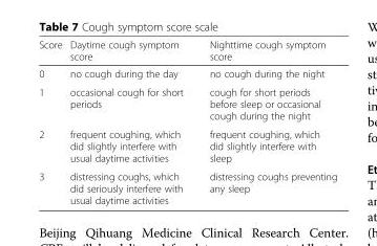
<table><thead><tr><td>Score</td><td>Daytime cough symptom score</td><td>Nighttime cough symptom score</td></tr></thead><tbody><tr><td>0</td><td>no cough during the day</td><td>no cough during the night</td></tr><tr><td>1</td><td>occasional cough for short periods</td><td>cough for short periods before sleep or occasional cough during the night</td></tr><tr><td>2</td><td>frequent coughing, which did slightly interfere with usual daytime activities</td><td>frequent coughing, which did slightly interfere with sleep</td></tr><tr><td>3</td><td>distressing coughs, which did seriously interfere with usual daytime activities</td><td>distressing coughs preventing any sleep</td></tr></tbody></table>